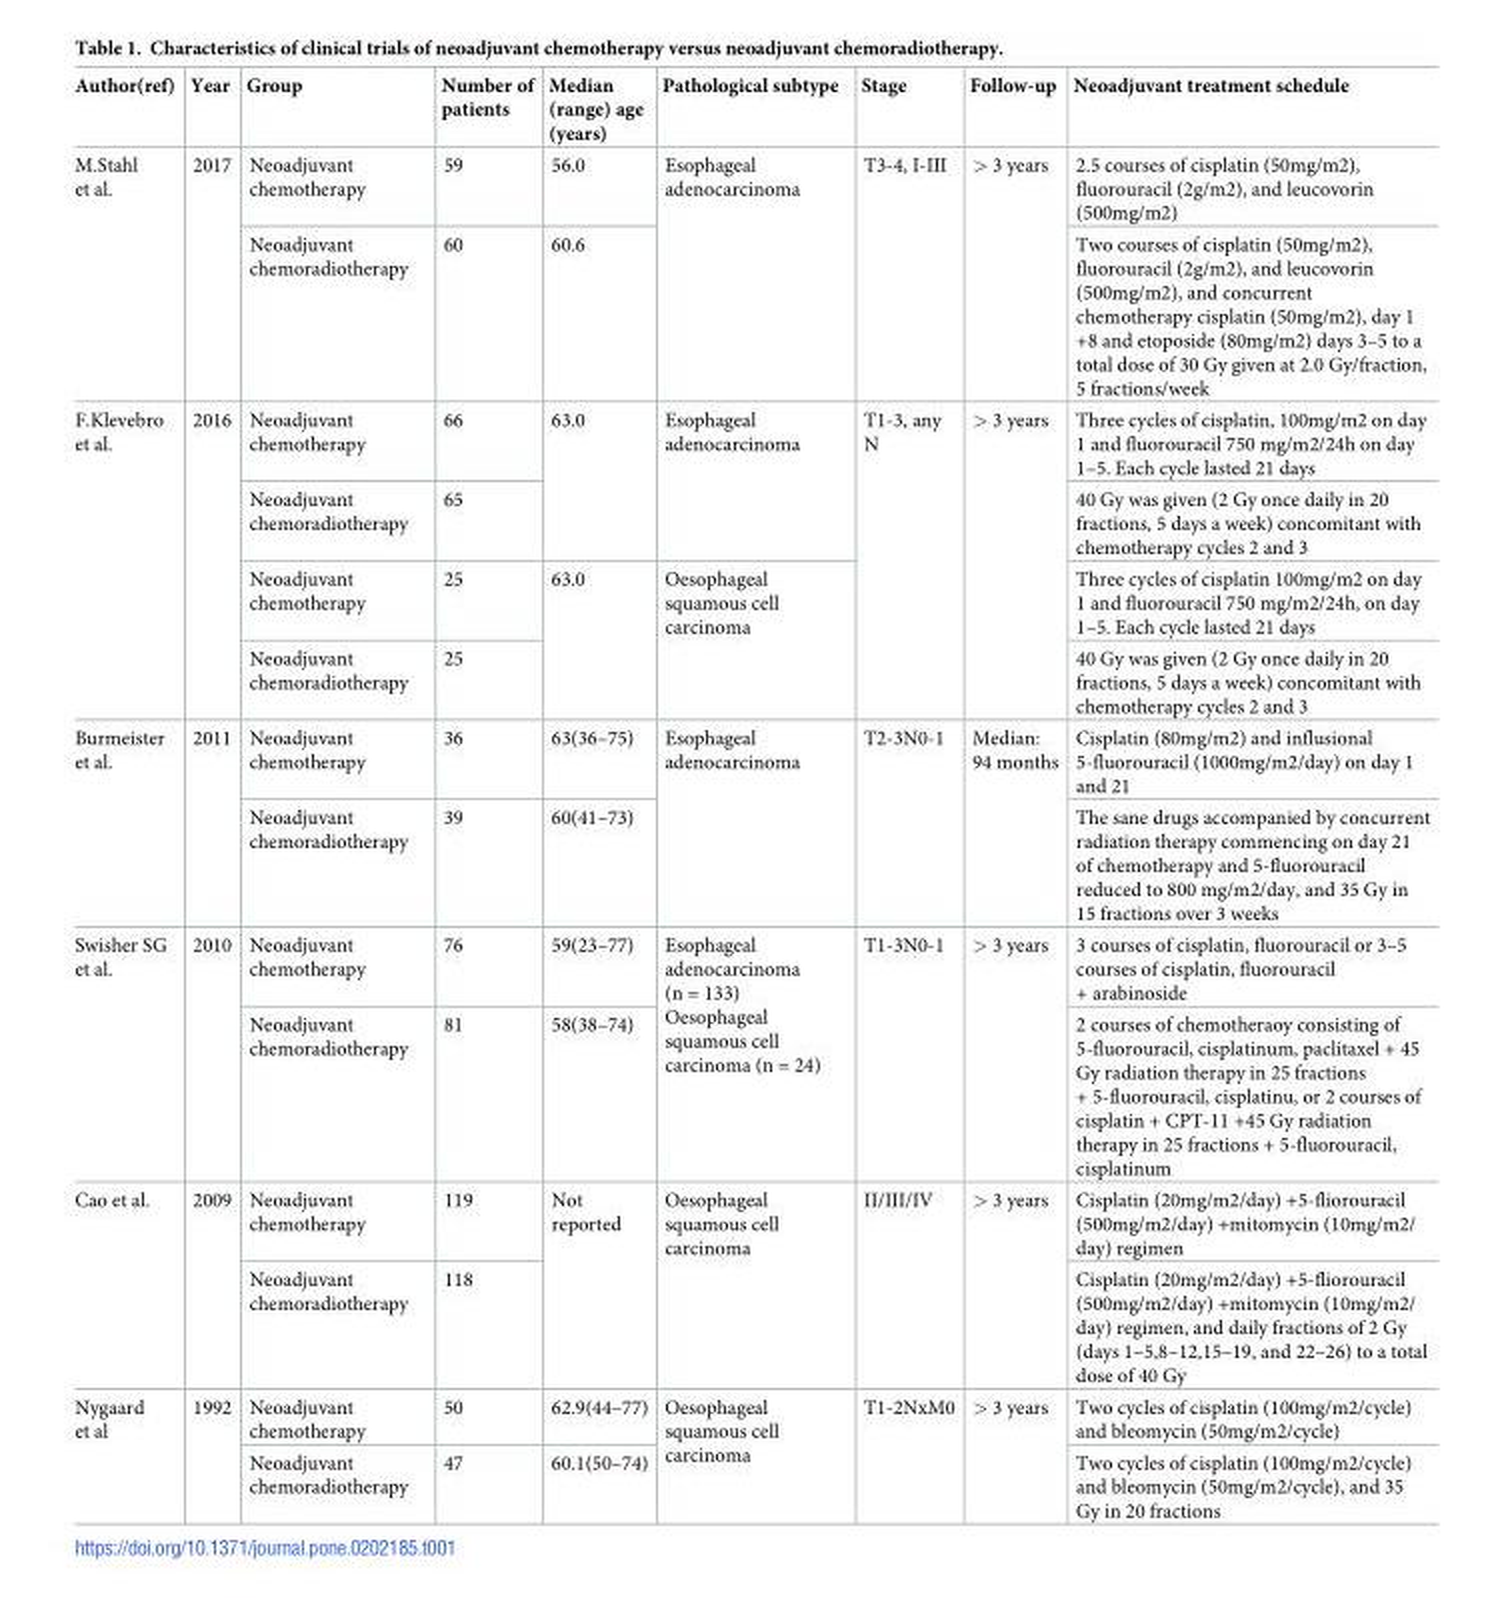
<table><thead><tr><td>Author(ref)</td><td>Year</td><td>Group</td><td>Number of patients</td><td>Median (range) age (years)</td><td>Pathological subtype</td><td>Stage</td><td>Follow-up</td><td>Neoadjuvant treatment schedule</td></tr></thead><tbody><tr><td rowspan="2">M.Stahl et al.</td><td rowspan="2">2017</td><td>Neoadjuvant chemotherapy</td><td>59</td><td>56.0</td><td rowspan="2">Esophageal adenocarcinoma</td><td rowspan="2">T3-4, I-III</td><td rowspan="2">&gt; 3 years</td><td>2.5 courses of cisplatin (50mg/m2), fluorouracil (2g/m2), and leucovorin (500mg/m2)</td></tr><tr><td>Neoadjuvant chemoradiotherapy</td><td>60</td><td>60.6</td><td>Two courses of cisplatin (50mg/m2), fluorouracil (2g/m2), and leucovorin (500mg/m2), and concurrent chemotherapy cisplatin (50mg/m2), day 1 +8 and etoposide (80mg/m2) days 3–5 to a total dose of 30 Gy given at 2.0 Gy/fraction, 5 fractions/week</td></tr><tr><td rowspan="4">F.Klevebro et al.</td><td rowspan="4">2016</td><td>Neoadjuvant chemotherapy</td><td>66</td><td rowspan="2">63.0</td><td rowspan="2">Esophageal adenocarcinoma</td><td rowspan="4">T1-3, any N</td><td rowspan="4">&gt; 3 years</td><td>Three cycles of cisplatin, 100mg/m2 on day 1 and fluorouracil 750 mg/m2/24h on day 1–5. Each cycle lasted 21 days</td></tr><tr><td>Neoadjuvant chemoradiotherapy</td><td>65</td><td>40 Gy was given (2 Gy once daily in 20 fractions, 5 days a week) concomitant with chemotherapy cycles 2 and 3</td></tr><tr><td>Neoadjuvant chemotherapy</td><td>25</td><td rowspan="2">63.0</td><td rowspan="2">Oesophageal squamous cell carcinoma</td><td>Three cycles of cisplatin 100mg/m2 on day 1 and fluorouracil 750 mg/m2/24h, on day 1–5. Each cycle lasted 21 days</td></tr><tr><td>Neoadjuvant chemoradiotherapy</td><td>25</td><td>40 Gy was given (2 Gy once daily in 20 fractions, 5 days a week) concomitant with chemotherapy cycles 2 and 3</td></tr><tr><td rowspan="2">Burmeister et al.</td><td rowspan="2">2011</td><td>Neoadjuvant chemotherapy</td><td>36</td><td>63(36–75)</td><td rowspan="2">Esophageal adenocarcinoma</td><td rowspan="2">T2-3N0-1</td><td rowspan="2">Median: 94 months</td><td>Cisplatin (80mg/m2) and influsional 5-fluorouracil (1000mg/m2/day) on day 1 and 21</td></tr><tr><td>Neoadjuvant chemoradiotherapy</td><td>39</td><td>60(41–73)</td><td>The sane drugs accompanied by concurrent radiation therapy commencing on day 21 of chemotherapy and 5-fluorouracil reduced to 800 mg/m2/day, and 35 Gy in 15 fractions over 3 weeks</td></tr><tr><td rowspan="2">Swisher SG et al.</td><td rowspan="2">2010</td><td>Neoadjuvant chemotherapy</td><td>76</td><td>59(23–77)</td><td rowspan="2">Esophageal adenocarcinoma (n = 133) Oesophageal squamous cell carcinoma (n = 24)</td><td rowspan="2">T1-3N0-1</td><td rowspan="2">&gt; 3 years</td><td>3 courses of cisplatin, fluorouracil or 3–5 courses of cisplatin, fluorouracil + arabinoside</td></tr><tr><td>Neoadjuvant chemoradiotherapy</td><td>81</td><td>58(38–74)</td><td>2 courses of chemotheraoy consisting of 5-fluorouracil, cisplatinum, paclitaxel + 45 Gy radiation therapy in 25 fractions + 5-fluorouracil, cisplatinu, or 2 courses of cisplatin + CPT-11 +45 Gy radiation therapy in 25 fractions + 5-fluorouracil, cisplatinum</td></tr><tr><td rowspan="2">Cao et al.</td><td rowspan="2">2009</td><td>Neoadjuvant chemotherapy</td><td>119</td><td rowspan="2">Not reported</td><td rowspan="2">Oesophageal squamous cell carcinoma</td><td rowspan="2">II/III/IV</td><td rowspan="2">&gt; 3 years</td><td>Cisplatin (20mg/m2/day) +5-fliorouracil (500mg/m2/day) +mitomycin (10mg/m2/ day) regimen</td></tr><tr><td>Neoadjuvant chemoradiotherapy</td><td>118</td><td>Cisplatin (20mg/m2/day) +5-fliorouracil (500mg/m2/day) +mitomycin (10mg/m2/ day) regimen, and daily fractions of 2 Gy (days 1–5,8–12,15–19, and 22–26) to a total dose of 40 Gy</td></tr><tr><td rowspan="2">Nygaard et al</td><td rowspan="2">1992</td><td>Neoadjuvant chemotherapy</td><td>50</td><td>62.9(44–77)</td><td rowspan="2">Oesophageal squamous cell carcinoma</td><td rowspan="2">T1-2NxM0</td><td rowspan="2">&gt; 3 years</td><td>Two cycles of cisplatin (100mg/m2/cycle) and bleomycin (50mg/m2/cycle)</td></tr><tr><td>Neoadjuvant chemoradiotherapy</td><td>47</td><td>60.1(50–74)</td><td>Two cycles of cisplatin (100mg/m2/cycle) and bleomycin (50mg/m2/cycle), and 35 Gy in 20 fractions</td></tr></tbody></table>